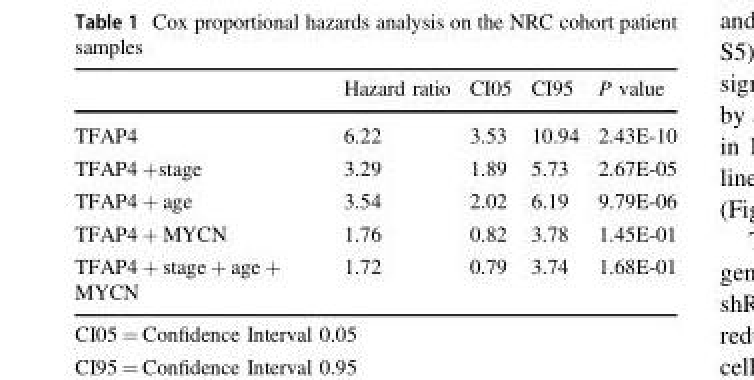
<table><thead><tr><td></td><td>Hazard ratio</td><td>CI05</td><td>CI95</td><td>P value</td></tr></thead><tbody><tr><td>TFAP4</td><td>6.22</td><td>3.53</td><td>10.94</td><td>2.43E-10</td></tr><tr><td>TFAP4 +stage</td><td>3.29</td><td>1.89</td><td>5.73</td><td>2.67E-05</td></tr><tr><td>TFAP4 + age</td><td>3.54</td><td>2.02</td><td>6.19</td><td>9.79E-06</td></tr><tr><td>TFAP4 + MYCN</td><td>1.76</td><td>0.82</td><td>3.78</td><td>1.45E-01</td></tr><tr><td>TFAP4 + stage + age + MYCN</td><td>1.72</td><td>0.79</td><td>3.74</td><td>1.68E-01</td></tr></tbody></table>